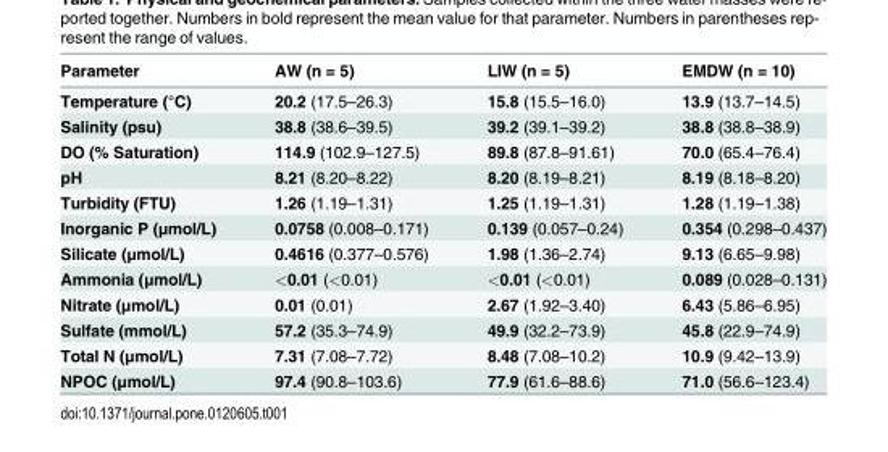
<table><thead><tr><td>Parameter</td><td>AW (n = 5)</td><td>LIW (n = 5)</td><td>EMDW (n = 10)</td></tr></thead><tbody><tr><td>Temperature (°C)</td><td>20.2 (17.5–26.3)</td><td>15.8 (15.5–16.0)</td><td>13.9 (13.7–14.5)</td></tr><tr><td>Salinity (psu)</td><td>38.8 (38.6–39.5)</td><td>39.2 (39.1–39.2)</td><td>38.8 (38.8–38.9)</td></tr><tr><td>DO (% Saturation)</td><td>114.9 (102.9–127.5)</td><td>89.8 (87.8–91.61)</td><td>70.0 (65.4–76.4)</td></tr><tr><td>pH</td><td>8.21 (8.20–8.22)</td><td>8.20 (8.19–8.21)</td><td>8.19 (8.18–8.20)</td></tr><tr><td>Turbidity (FTU)</td><td>1.26 (1.19–1.31)</td><td>1.25 (1.19–1.31)</td><td>1.28 (1.19–1.38)</td></tr><tr><td>Inorganic P (μmol/L)</td><td>0.0758 (0.008–0.171)</td><td>0.139 (0.057–0.24)</td><td>0.354 (0.298–0.437)</td></tr><tr><td>Silicate (μmol/L)</td><td>0.4616 (0.377–0.576)</td><td>1.98 (1.36–2.74)</td><td>9.13 (6.65–9.98)</td></tr><tr><td>Ammonia (μmol/L)</td><td>&lt;0.01 (&lt;0.01)</td><td>&lt;0.01 (&lt;0.01)</td><td>0.089 (0.028–0.131)</td></tr><tr><td>Nitrate (μmol/L)</td><td>0.01 (0.01)</td><td>2.67 (1.92–3.40)</td><td>6.43 (5.86–6.95)</td></tr><tr><td>Sulfate (mmol/L)</td><td>57.2 (35.3–74.9)</td><td>49.9 (32.2–73.9)</td><td>45.8 (22.9–74.9)</td></tr><tr><td>Total N (μmol/L)</td><td>7.31 (7.08–7.72)</td><td>8.48 (7.08–10.2)</td><td>10.9 (9.42–13.9)</td></tr><tr><td>NPOC (μmol/L)</td><td>97.4 (90.8–103.6)</td><td>77.9 (61.6–88.6)</td><td>71.0 (56.6–123.4)</td></tr></tbody></table>